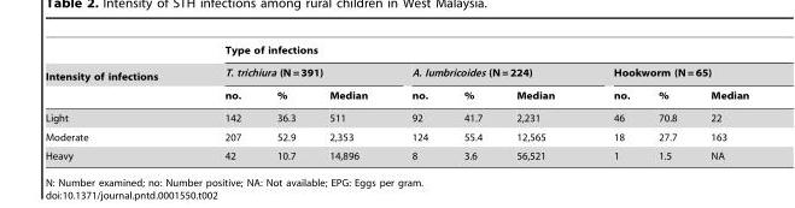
<table><thead><tr><td rowspan="3">Intensity of infections</td><td colspan="9">Type of infections</td></tr><tr><td colspan="3">T. trichiura (N = 391)</td><td colspan="3">A. lumbricoides (N = 224)</td><td colspan="3">Hookworm (N = 65)</td></tr><tr><td>no.</td><td>%</td><td>Median</td><td>no.</td><td>%</td><td>Median</td><td>no.</td><td>%</td><td>Median</td></tr></thead><tbody><tr><td>Light</td><td>142</td><td>36.3</td><td>511</td><td>92</td><td>41.7</td><td>2,231</td><td>46</td><td>70.8</td><td>22</td></tr><tr><td>Moderate</td><td>207</td><td>52.9</td><td>2,353</td><td>124</td><td>55.4</td><td>12,565</td><td>18</td><td>27.7</td><td>163</td></tr><tr><td>Heavy</td><td>42</td><td>10.7</td><td>14,896</td><td>8</td><td>3.6</td><td>56,521</td><td>1</td><td>1.5</td><td>NA</td></tr></tbody></table>